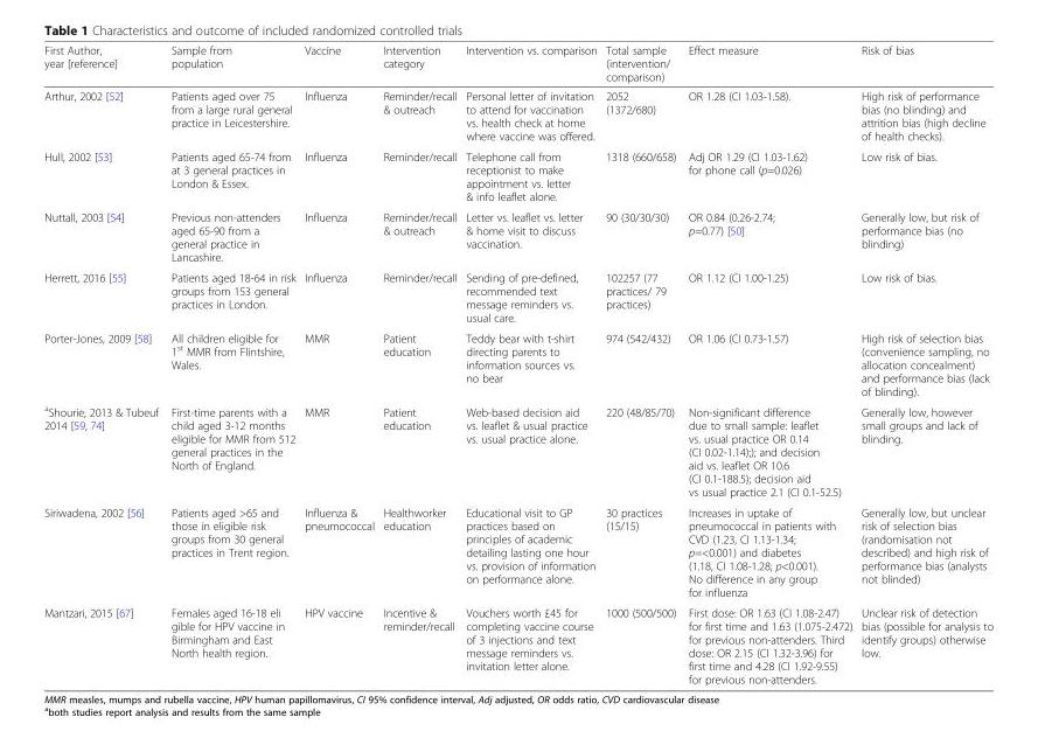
<table><thead><tr><td>First Author, year [reference]</td><td>Sample from population</td><td>Vaccine</td><td>Intervention category</td><td>Intervention vs. comparison</td><td>Total sample (intervention/ comparison)</td><td>Effect measure</td><td>Risk of bias</td></tr></thead><tbody><tr><td>Arthur, 2002 [52]</td><td>Patients aged over 75 from a large rural general practice in Leicestershire.</td><td>Influenza</td><td>Reminder/recall &amp; outreach</td><td>Personal letter of invitation to attend for vaccination vs. health check at home where vaccine was offered.</td><td>2052 (1372/680)</td><td>OR 1.28 (CI 1.03-1.58).</td><td>High risk of performance bias (no blinding) and attrition bias (high decline of health checks).</td></tr><tr><td>Hull, 2002 [53]</td><td>Patients aged 65-74 from at 3 general practices in London &amp; Essex.</td><td>Influenza</td><td>Reminder/recall</td><td>Telephone call from receptionist to make appointment vs. letter &amp; info leaflet alone.</td><td>1318 (660/658)</td><td>Adj OR 1.29 (CI 1.03-1.62) for phone call (p=0.026)</td><td>Low risk of bias.</td></tr><tr><td>Nuttall, 2003 [54]</td><td>Previous non-attenders aged 65-90 from a general practice in Lancashire.</td><td>Influenza</td><td>Reminder/recall &amp; outreach</td><td>Letter vs. leaflet vs. letter &amp; home visit to discuss vaccination.</td><td>90 (30/30/30)</td><td>OR 0.84 (0.26-2.74; p=0.77) [50]</td><td>Generally low, but risk of performance bias (no blinding)</td></tr><tr><td>Herrett, 2016 [55]</td><td>Patients aged 18-64 in risk groups from 153 general practices in London.</td><td>Influenza</td><td>Reminder/recall</td><td>Sending of pre-defined, recommended text message reminders vs. usual care.</td><td>102257 (77 practices/ 79 practices)</td><td>OR 1.12 (CI 1.00-1.25)</td><td>Low risk of bias.</td></tr><tr><td>Porter-Jones, 2009 [58]</td><td>All children eligible for 1<sup>st</sup> MMR from Flintshire, Wales.</td><td>MMR</td><td>Patient education</td><td>Teddy bear with t-shirt directing parents to information sources vs. no bear</td><td>974 (542/432)</td><td>OR 1.06 (CI 0.73-1.57)</td><td>High risk of selection bias (convenience sampling, no allocation concealment) and performance bias (lack of blinding).</td></tr><tr><td><sup>a</sup>Shourie, 2013 &amp; Tubeuf 2014 [59, 74]</td><td>First-time parents with a child aged 3-12 months eligible for MMR from 512 general practices in the North of England.</td><td>MMR</td><td>Patient education</td><td>Web-based decision aid vs. leaflet &amp; usual practice vs. usual practice alone.</td><td>220 (48/85/70)</td><td>Non-significant difference due to small sample: leaflet vs. usual practice OR 0.14 (CI 0.02-1.14);); and decision aid vs. leaflet OR 10.6 (CI 0.1-188.5); decision aid vs usual practice 2.1 (CI 0.1-52.5)</td><td>Generally low, however small groups and lack of blinding.</td></tr><tr><td>Siriwadena, 2002 [56]</td><td>Patients aged &gt;65 and those in eligible risk groups from 30 general practices in Trent region.</td><td>Influenza &amp; pneumococcal</td><td>Healthworker education</td><td>Educational visit to GP practices based on principles of academic detailing lasting one hour vs. provision of information on performance alone.</td><td>30 practices (15/15)</td><td>Increases in uptake of pneumococcal in patients with CVD (1.23, CI 1.13-1.34; p=&lt;0.001) and diabetes (1.18, CI 1.08-1.28; p&lt;0.001). No difference in any group for influenza</td><td>Generally low, but unclear risk of selection bias (randomisation not described) and high risk of performance bias (analysts not blinded)</td></tr><tr><td>Mantzari, 2015 [67]</td><td>Females aged 16-18 eli gible for HPV vaccine in Birmingham and East North health region.</td><td>HPV vaccine</td><td>Incentive &amp; reminder/recall</td><td>Vouchers worth £45 for completing vaccine course of 3 injections and text message reminders vs. invitation letter alone.</td><td>1000 (500/500)</td><td>First dose: OR 1.63 (CI 1.08-2.47) for first time and 1.63 (1.075-2.472) for previous non-attenders. Third dose: OR 2.15 (CI 1.32-3.96) for first time and 4.28 (CI 1.92-9.55) for previous non-attenders.</td><td>Unclear risk of detection bias (possible for analysis to identify groups) otherwise low.</td></tr></tbody></table>